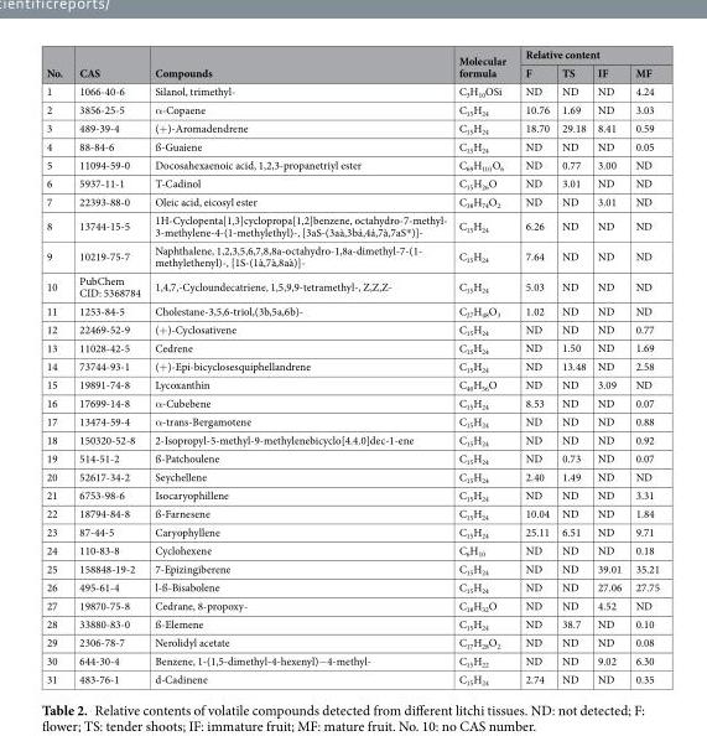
<table><thead><tr><td rowspan="2">No.</td><td rowspan="2">CAS</td><td rowspan="2">Compounds</td><td rowspan="2">Molecular formula</td><td colspan="4">Relative content</td></tr><tr><td>F</td><td>TS</td><td>IF</td><td>MF</td></tr></thead><tbody><tr><td>1</td><td>1066-40-6</td><td>Silanol, trimethyl-</td><td>C<sub>3</sub>H<sub>10</sub>OSi</td><td>ND</td><td>ND</td><td>ND</td><td>4.24</td></tr><tr><td>2</td><td>3856-25-5</td><td>α-Copaene</td><td>C<sub>15</sub>H<sub>24</sub></td><td>10.76</td><td>1.69</td><td>ND</td><td>3.03</td></tr><tr><td>3</td><td>489-39-4</td><td>(+)-Aromadendrene</td><td>C<sub>15</sub>H<sub>24</sub></td><td>18.70</td><td>29.18</td><td>8.41</td><td>0.59</td></tr><tr><td>4</td><td>88-84-6</td><td>ß-Guaiene</td><td>C<sub>15</sub>H<sub>24</sub></td><td>ND</td><td>ND</td><td>ND</td><td>0.05</td></tr><tr><td>5</td><td>11094-59-0</td><td>Docosahexaenoic acid, 1,2,3-propanetriyl ester</td><td>C<sub>69</sub>H<sub>101</sub>O<sub>6</sub></td><td>ND</td><td>0.77</td><td>3.00</td><td>ND</td></tr><tr><td>6</td><td>5937-11-1</td><td>T-Cadinol</td><td>C<sub>15</sub>H<sub>26</sub>O</td><td>ND</td><td>3.01</td><td>ND</td><td>ND</td></tr><tr><td>7</td><td>22393-88-0</td><td>Oleic acid, eicosyl ester</td><td>C<sub>38</sub>H<sub>74</sub>O<sub>2</sub></td><td>ND</td><td>ND</td><td>3.01</td><td>ND</td></tr><tr><td>8</td><td>13744-15-5</td><td>1H-Cyclopenta[1,3]cyclopropa[1,2]benzene, octahydro-7-methyl- 3-methylene-4-(1-methylethyl)-, [3aS-(3aà,3bá,4á,7à,7aS*)]-</td><td>C<sub>15</sub>H<sub>24</sub></td><td>6.26</td><td>ND</td><td>ND</td><td>ND</td></tr><tr><td>9</td><td>10219-75-7</td><td>Naphthalene, 1,2,3,5,6,7,8,8a-octahydro-1,8a-dimethyl-7-(1- methylethenyl)-, [1S-(1à,7à,8aà)]-</td><td>C<sub>15</sub>H<sub>24</sub></td><td>7.64</td><td>ND</td><td>ND</td><td>ND</td></tr><tr><td>10</td><td>PubChem CID: 5368784</td><td>1,4,7,-Cycloundecatriene, 1,5,9,9-tetramethyl-, Z,Z,Z-</td><td>C<sub>15</sub>H<sub>24</sub></td><td>5.03</td><td>ND</td><td>ND</td><td>ND</td></tr><tr><td>11</td><td>1253-84-5</td><td>Cholestane-3,5,6-triol,(3b,5a,6b)-</td><td>C<sub>27</sub>H<sub>48</sub>O<sub>3</sub></td><td>1.02</td><td>ND</td><td>ND</td><td>ND</td></tr><tr><td>12</td><td>22469-52-9</td><td>(+)-Cyclosativene</td><td>C<sub>15</sub>H<sub>24</sub></td><td>ND</td><td>ND</td><td>ND</td><td>0.77</td></tr><tr><td>13</td><td>11028-42-5</td><td>Cedrene</td><td>C<sub>15</sub>H<sub>24</sub></td><td>ND</td><td>1.50</td><td>ND</td><td>1.69</td></tr><tr><td>14</td><td>73744-93-1</td><td>(+)-Epi-bicyclosesquiphellandrene</td><td>C<sub>15</sub>H<sub>24</sub></td><td>ND</td><td>13.48</td><td>ND</td><td>2.58</td></tr><tr><td>15</td><td>19891-74-8</td><td>Lycoxanthin</td><td>C<sub>40</sub>H<sub>56</sub>O</td><td>ND</td><td>ND</td><td>3.09</td><td>ND</td></tr><tr><td>16</td><td>17699-14-8</td><td>α-Cubebene</td><td>C<sub>15</sub>H<sub>24</sub></td><td>8.53</td><td>ND</td><td>ND</td><td>0.07</td></tr><tr><td>17</td><td>13474-59-4</td><td>α-trans-Bergamotene</td><td>C<sub>15</sub>H<sub>24</sub></td><td>ND</td><td>ND</td><td>ND</td><td>0.88</td></tr><tr><td>18</td><td>150320-52-8</td><td>2-Isopropyl-5-methyl-9-methylenebicyclo[4.4.0]dec-1-ene</td><td>C<sub>15</sub>H<sub>24</sub></td><td>ND</td><td>ND</td><td>ND</td><td>0.92</td></tr><tr><td>19</td><td>514-51-2</td><td>ß-Patchoulene</td><td>C<sub>15</sub>H<sub>24</sub></td><td>ND</td><td>0.73</td><td>ND</td><td>0.07</td></tr><tr><td>20</td><td>52617-34-2</td><td>Seychellene</td><td>C<sub>15</sub>H<sub>24</sub></td><td>2.40</td><td>1.49</td><td>ND</td><td>ND</td></tr><tr><td>21</td><td>6753-98-6</td><td>Isocaryophillene</td><td>C<sub>15</sub>H<sub>24</sub></td><td>ND</td><td>ND</td><td>ND</td><td>3.31</td></tr><tr><td>22</td><td>18794-84-8</td><td>ß-Farnesene</td><td>C<sub>15</sub>H<sub>24</sub></td><td>10.04</td><td>ND</td><td>ND</td><td>1.84</td></tr><tr><td>23</td><td>87-44-5</td><td>Caryophyllene</td><td>C<sub>15</sub>H<sub>24</sub></td><td>25.11</td><td>6.51</td><td>ND</td><td>9.71</td></tr><tr><td>24</td><td>110-83-8</td><td>Cyclohexene</td><td>C<sub>6</sub>H<sub>10</sub></td><td>ND</td><td>ND</td><td>ND</td><td>0.18</td></tr><tr><td>25</td><td>158848-19-2</td><td>7-Epizingiberene</td><td>C<sub>15</sub>H<sub>24</sub></td><td>ND</td><td>ND</td><td>39.01</td><td>35.21</td></tr><tr><td>26</td><td>495-61-4</td><td>l-ß-Bisabolene</td><td>C<sub>15</sub>H<sub>24</sub></td><td>ND</td><td>ND</td><td>27.06</td><td>27.75</td></tr><tr><td>27</td><td>19870-75-8</td><td>Cedrane, 8-propoxy-</td><td>C<sub>18</sub>H<sub>32</sub>O</td><td>ND</td><td>ND</td><td>4.52</td><td>ND</td></tr><tr><td>28</td><td>33880-83-0</td><td>ß-Elemene</td><td>C<sub>15</sub>H<sub>24</sub></td><td>ND</td><td>38.7</td><td>ND</td><td>0.10</td></tr><tr><td>29</td><td>2306-78-7</td><td>Nerolidyl acetate</td><td>C<sub>17</sub>H<sub>28</sub>O<sub>2</sub></td><td>ND</td><td>ND</td><td>ND</td><td>0.08</td></tr><tr><td>30</td><td>644-30-4</td><td>Benzene, 1-(1,5-dimethyl-4-hexenyl)−4-methyl-</td><td>C<sub>15</sub>H<sub>22</sub></td><td>ND</td><td>ND</td><td>9.02</td><td>6.30</td></tr><tr><td>31</td><td>483-76-1</td><td>d-Cadinene</td><td>C<sub>15</sub>H<sub>24</sub></td><td>2.74</td><td>ND</td><td>ND</td><td>0.35</td></tr></tbody></table>